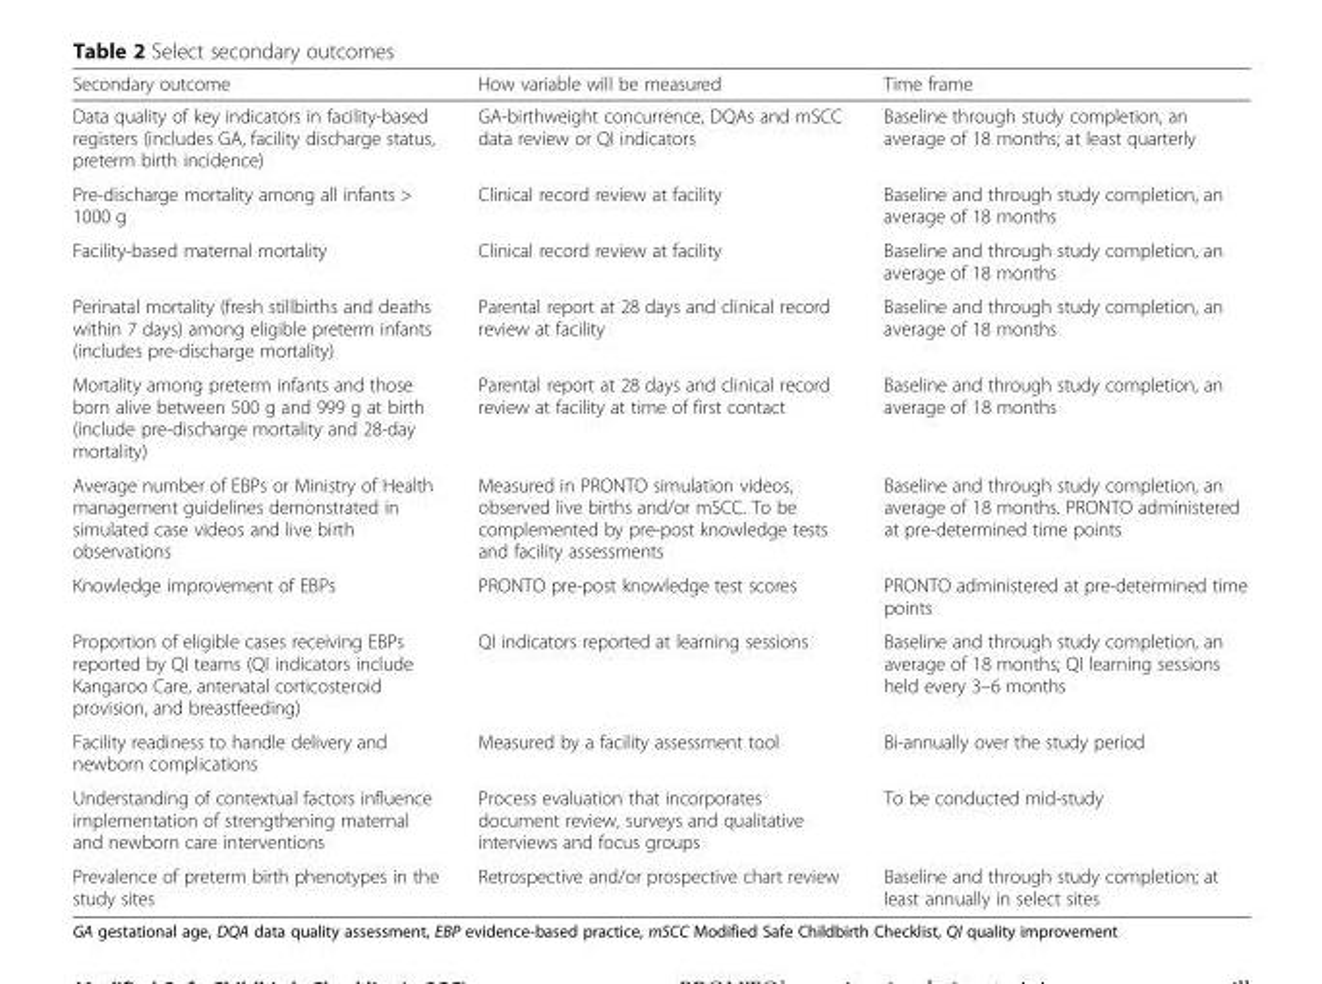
<table><thead><tr><td>Secondary outcome</td><td>How variable will be measured</td><td>Time frame</td></tr></thead><tbody><tr><td>Data quality of key indicators in facility-based registers (includes GA, facility discharge status, preterm birth incidence)</td><td>GA-birthweight concurrence, DQAs and mSCC data review or QI indicators</td><td>Baseline through study completion, an average of 18 months; at least quarterly</td></tr><tr><td>Pre-discharge mortality among all infants &gt; 1000 g</td><td>Clinical record review at facility</td><td>Baseline and through study completion, an average of 18 months</td></tr><tr><td>Facility-based maternal mortality</td><td>Clinical record review at facility</td><td>Baseline and through study completion, an average of 18 months</td></tr><tr><td>Perinatal mortality (fresh stillbirths and deaths within 7 days) among eligible preterm infants (includes pre-discharge mortality)</td><td>Parental report at 28 days and clinical record review at facility</td><td>Baseline and through study completion, an average of 18 months</td></tr><tr><td>Mortality among preterm infants and those born alive between 500 g and 999 g at birth (include pre-discharge mortality and 28-day mortality)</td><td>Parental report at 28 days and clinical record review at facility at time of first contact</td><td>Baseline and through study completion, an average of 18 months</td></tr><tr><td>Average number of EBPs or Ministry of Health management guidelines demonstrated in simulated case videos and live birth observations</td><td>Measured in PRONTO simulation videos, observed live births and/or mSCC. To be complemented by pre-post knowledge tests and facility assessments</td><td>Baseline and through study completion, an average of 18 months. PRONTO administered at pre-determined time points</td></tr><tr><td>Knowledge improvement of EBPs</td><td>PRONTO pre-post knowledge test scores</td><td>PRONTO administered at pre-determined time points</td></tr><tr><td>Proportion of eligible cases receiving EBPs reported by QI teams (QI indicators include Kangaroo Care, antenatal corticosteroid provision, and breastfeeding)</td><td>QI indicators reported at learning sessions</td><td>Baseline and through study completion, an average of 18 months; QI learning sessions held every 3–6 months</td></tr><tr><td>Facility readiness to handle delivery and newborn complications</td><td>Measured by a facility assessment tool</td><td>Bi-annually over the study period</td></tr><tr><td>Understanding of contextual factors influence implementation of strengthening maternal and newborn care interventions</td><td>Process evaluation that incorporates document review, surveys and qualitative interviews and focus groups</td><td>To be conducted mid-study</td></tr><tr><td>Prevalence of preterm birth phenotypes in the study sites</td><td>Retrospective and/or prospective chart review</td><td>Baseline and through study completion; at least annually in select sites</td></tr></tbody></table>